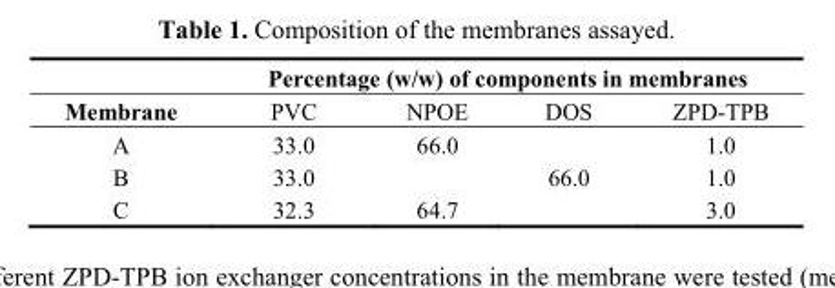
<table><thead><tr><td rowspan="2">Membrane</td><td colspan="4">Percentage (w/w) of components in membranes</td></tr><tr><td>PVC</td><td>NPOE</td><td>DOS</td><td>ZPD-TPB</td></tr></thead><tbody><tr><td>A</td><td>33.0</td><td>66.0</td><td></td><td>1.0</td></tr><tr><td>B</td><td>33.0</td><td></td><td>66.0</td><td>1.0</td></tr><tr><td>C</td><td>32.3</td><td>64.7</td><td></td><td>3.0</td></tr></tbody></table>